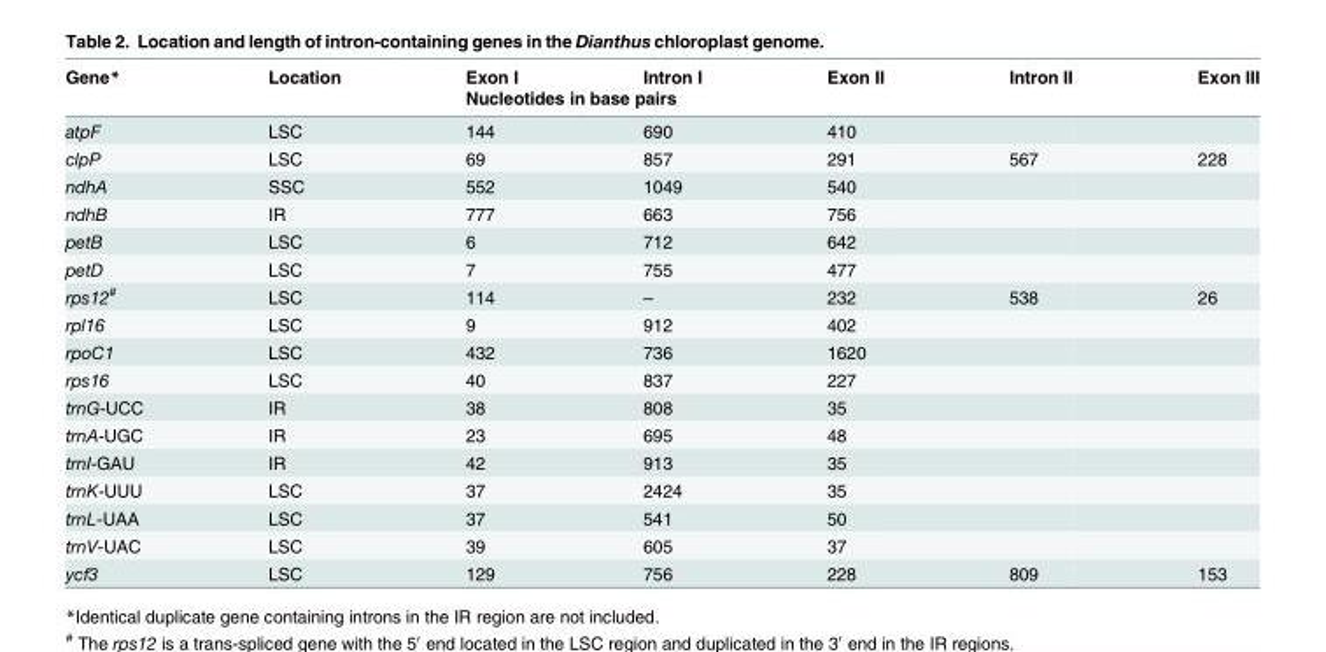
<table><thead><tr><td rowspan="2">Gene*</td><td rowspan="2">Location</td><td>Exon I</td><td>Intron I</td><td>Exon II</td><td>Intron II</td><td>Exon III</td></tr><tr><td colspan="5">Nucleotides in base pairs</td></tr></thead><tbody><tr><td>atpF</td><td>LSC</td><td>144</td><td>690</td><td>410</td><td></td><td></td></tr><tr><td>clpP</td><td>LSC</td><td>69</td><td>857</td><td>291</td><td>567</td><td>228</td></tr><tr><td>ndhA</td><td>SSC</td><td>552</td><td>1049</td><td>540</td><td></td><td></td></tr><tr><td>ndhB</td><td>IR</td><td>777</td><td>663</td><td>756</td><td></td><td></td></tr><tr><td>petB</td><td>LSC</td><td>6</td><td>712</td><td>642</td><td></td><td></td></tr><tr><td>petD</td><td>LSC</td><td>7</td><td>755</td><td>477</td><td></td><td></td></tr><tr><td>rps12<sup>#</sup></td><td>LSC</td><td>114</td><td>–</td><td>232</td><td>538</td><td>26</td></tr><tr><td>rpl16</td><td>LSC</td><td>9</td><td>912</td><td>402</td><td></td><td></td></tr><tr><td>rpoC1</td><td>LSC</td><td>432</td><td>736</td><td>1620</td><td></td><td></td></tr><tr><td>rps16</td><td>LSC</td><td>40</td><td>837</td><td>227</td><td></td><td></td></tr><tr><td>trnG-UCC</td><td>IR</td><td>38</td><td>808</td><td>35</td><td></td><td></td></tr><tr><td>trnA-UGC</td><td>IR</td><td>23</td><td>695</td><td>48</td><td></td><td></td></tr><tr><td>trnI-GAU</td><td>IR</td><td>42</td><td>913</td><td>35</td><td></td><td></td></tr><tr><td>trnK-UUU</td><td>LSC</td><td>37</td><td>2424</td><td>35</td><td></td><td></td></tr><tr><td>trnL-UAA</td><td>LSC</td><td>37</td><td>541</td><td>50</td><td></td><td></td></tr><tr><td>trnV-UAC</td><td>LSC</td><td>39</td><td>605</td><td>37</td><td></td><td></td></tr><tr><td>ycf3</td><td>LSC</td><td>129</td><td>756</td><td>228</td><td>809</td><td>153</td></tr></tbody></table>